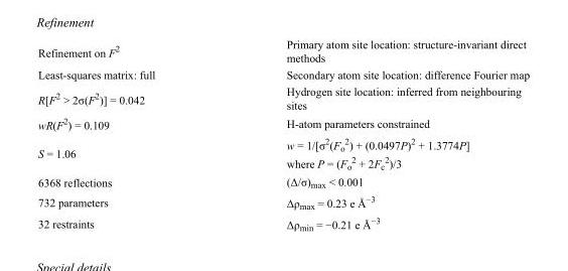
<table><tbody><tr><td>Refinement on F<sup>2</sup></td><td>Primary atom site location: structure-invariant direct methods</td></tr><tr><td>Least-squares matrix: full</td><td>Secondary atom site location: difference Fourier map</td></tr><tr><td>R[F<sup>2</sup> &gt; 2σ(F<sup>2</sup>)] = 0.042</td><td>Hydrogen site location: inferred from neighbouring sites</td></tr><tr><td>wR(F<sup>2</sup>) = 0.109</td><td>H-atom parameters constrained</td></tr><tr><td>S = 1.06</td><td>w = 1/[σ<sup>2</sup>(F<sub>o</sub> <sup>2</sup>) + (0.0497P)<sup>2</sup> + 1.3774P] where P = (F<sub>o</sub> <sup>2</sup> + 2F<sub>c</sub> <sup>2</sup>)/3</td></tr><tr><td>6368 reflections</td><td>(Δ/σ)<sub>max</sub> &lt; 0.001</td></tr><tr><td>732 parameters</td><td>Δρ<sub>max</sub> = 0.23 e Å<sup>−3</sup></td></tr><tr><td>32 restraints</td><td>Δρ<sub>min</sub> = −0.21 e Å<sup>−3</sup></td></tr></tbody></table>